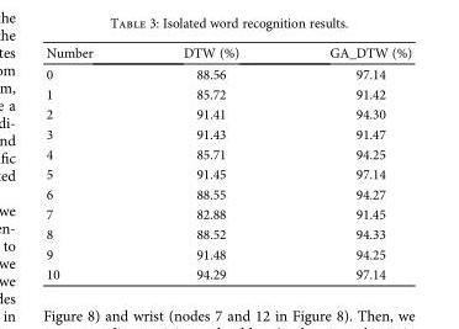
<table><thead><tr><td>Number</td><td>DTW (%)</td><td>GA_DTW (%)</td></tr></thead><tbody><tr><td>0</td><td>88.56</td><td>97.14</td></tr><tr><td>1</td><td>85.72</td><td>91.42</td></tr><tr><td>2</td><td>91.41</td><td>94.30</td></tr><tr><td>3</td><td>91.43</td><td>91.47</td></tr><tr><td>4</td><td>85.71</td><td>94.25</td></tr><tr><td>5</td><td>91.45</td><td>97.14</td></tr><tr><td>6</td><td>88.55</td><td>94.27</td></tr><tr><td>7</td><td>82.88</td><td>91.45</td></tr><tr><td>8</td><td>88.52</td><td>94.33</td></tr><tr><td>9</td><td>91.48</td><td>94.25</td></tr><tr><td>10</td><td>94.29</td><td>97.14</td></tr></tbody></table>